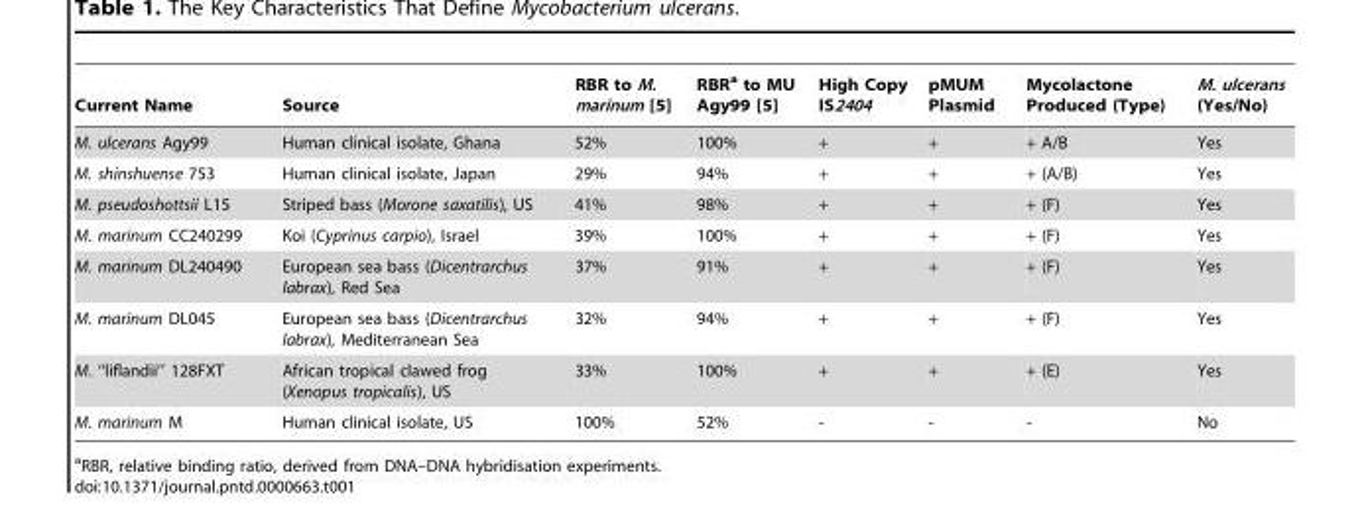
<table><thead><tr><td>Current Name</td><td>Source</td><td>RBR to M. marinum [5]</td><td>RBR<sup>a</sup> to MU Agy99 [5]</td><td>High Copy IS2404</td><td>pMUM Plasmid</td><td>Mycolactone Produced (Type)</td><td>M. ulcerans (Yes/No)</td></tr></thead><tbody><tr><td>M. ulcerans Agy99</td><td>Human clinical isolate, Ghana</td><td>52%</td><td>100%</td><td>+</td><td>+</td><td>+ A/B</td><td>Yes</td></tr><tr><td>M. shinshuense 753</td><td>Human clinical isolate, Japan</td><td>29%</td><td>94%</td><td>+</td><td>+</td><td>+ (A/B)</td><td>Yes</td></tr><tr><td>M. pseudoshottsii L15</td><td>Striped bass (Morone saxatilis), US</td><td>41%</td><td>98%</td><td>+</td><td>+</td><td>+ (F)</td><td>Yes</td></tr><tr><td>M. marinum CC240299</td><td>Koi (Cyprinus carpio), Israel</td><td>39%</td><td>100%</td><td>+</td><td>+</td><td>+ (F)</td><td>Yes</td></tr><tr><td>M. marinum DL240490</td><td>European sea bass (Dicentrarchus labrax), Red Sea</td><td>37%</td><td>91%</td><td>+</td><td>+</td><td>+ (F)</td><td>Yes</td></tr><tr><td>M. marinum DL045</td><td>European sea bass (Dicentrarchus labrax), Mediterranean Sea</td><td>32%</td><td>94%</td><td>+</td><td>+</td><td>+ (F)</td><td>Yes</td></tr><tr><td>M. ‘‘liflandii’’ 128FXT</td><td>African tropical clawed frog (Xenopus tropicalis), US</td><td>33%</td><td>100%</td><td>+</td><td>+</td><td>+ (E)</td><td>Yes</td></tr><tr><td>M. marinum M</td><td>Human clinical isolate, US</td><td>100%</td><td>52%</td><td>-</td><td>-</td><td>-</td><td>No</td></tr></tbody></table>